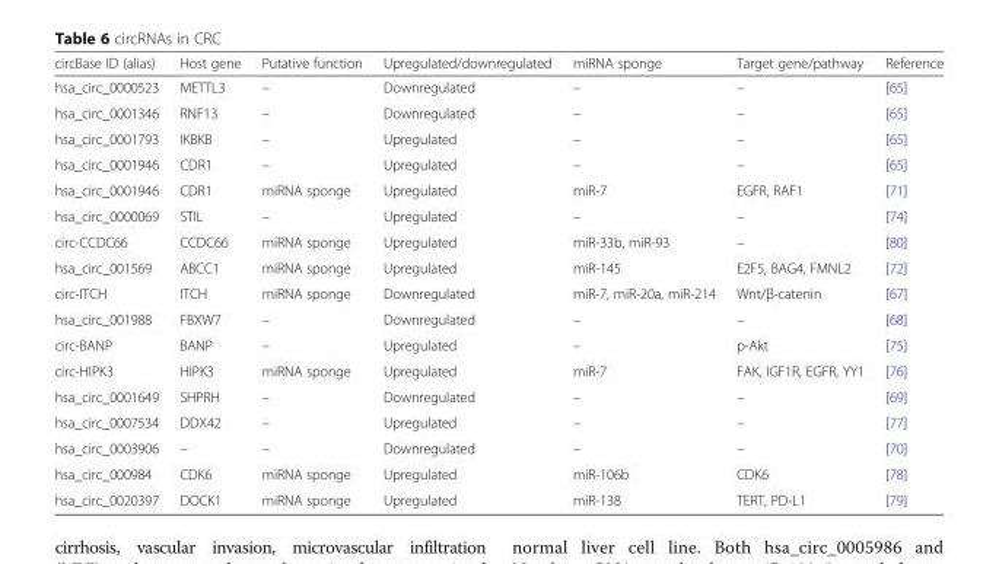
<table><thead><tr><td>circBase ID (alias)</td><td>Host gene</td><td>Putative function</td><td>Upregulated/downregulated</td><td>miRNA sponge</td><td>Target gene/pathway</td><td>Reference</td></tr></thead><tbody><tr><td>hsa_circ_0000523</td><td>METTL3</td><td>–</td><td>Downregulated</td><td>–</td><td>–</td><td>[65]</td></tr><tr><td>hsa_circ_0001346</td><td>RNF13</td><td>–</td><td>Downregulated</td><td>–</td><td>–</td><td>[65]</td></tr><tr><td>hsa_circ_0001793</td><td>IKBKB</td><td>–</td><td>Upregulated</td><td>–</td><td>–</td><td>[65]</td></tr><tr><td>hsa_circ_0001946</td><td>CDR1</td><td>–</td><td>Upregulated</td><td>–</td><td>–</td><td>[65]</td></tr><tr><td>hsa_circ_0001946</td><td>CDR1</td><td>miRNA sponge</td><td>Upregulated</td><td>miR-7</td><td>EGFR, RAF1</td><td>[71]</td></tr><tr><td>hsa_circ_0000069</td><td>STIL</td><td>–</td><td>Upregulated</td><td>–</td><td>–</td><td>[74]</td></tr><tr><td>circ-CCDC66</td><td>CCDC66</td><td>miRNA sponge</td><td>Upregulated</td><td>miR-33b, miR-93</td><td>–</td><td>[80]</td></tr><tr><td>hsa_circ_001569</td><td>ABCC1</td><td>miRNA sponge</td><td>Upregulated</td><td>miR-145</td><td>E2F5, BAG4, FMNL2</td><td>[72]</td></tr><tr><td>circ-ITCH</td><td>ITCH</td><td>miRNA sponge</td><td>Downregulated</td><td>miR-7, miR-20a, miR-214</td><td>Wnt/β-catenin</td><td>[67]</td></tr><tr><td>hsa_circ_001988</td><td>FBXW7</td><td>–</td><td>Downregulated</td><td>–</td><td>–</td><td>[68]</td></tr><tr><td>circ-BANP</td><td>BANP</td><td>–</td><td>Upregulated</td><td>–</td><td>p-Akt</td><td>[75]</td></tr><tr><td>circ-HIPK3</td><td>HIPK3</td><td>miRNA sponge</td><td>Upregulated</td><td>miR-7</td><td>FAK, IGF1R, EGFR, YY1</td><td>[76]</td></tr><tr><td>hsa_circ_0001649</td><td>SHPRH</td><td>–</td><td>Downregulated</td><td>–</td><td>–</td><td>[69]</td></tr><tr><td>hsa_circ_0007534</td><td>DDX42</td><td>–</td><td>Upregulated</td><td>–</td><td>–</td><td>[77]</td></tr><tr><td>hsa_circ_0003906</td><td>–</td><td>–</td><td>Downregulated</td><td>–</td><td>–</td><td>[70]</td></tr><tr><td>hsa_circ_000984</td><td>CDK6</td><td>miRNA sponge</td><td>Upregulated</td><td>miR-106b</td><td>CDK6</td><td>[78]</td></tr><tr><td>hsa_circ_0020397</td><td>DOCK1</td><td>miRNA sponge</td><td>Upregulated</td><td>miR-138</td><td>TERT, PD-L1</td><td>[79]</td></tr></tbody></table>